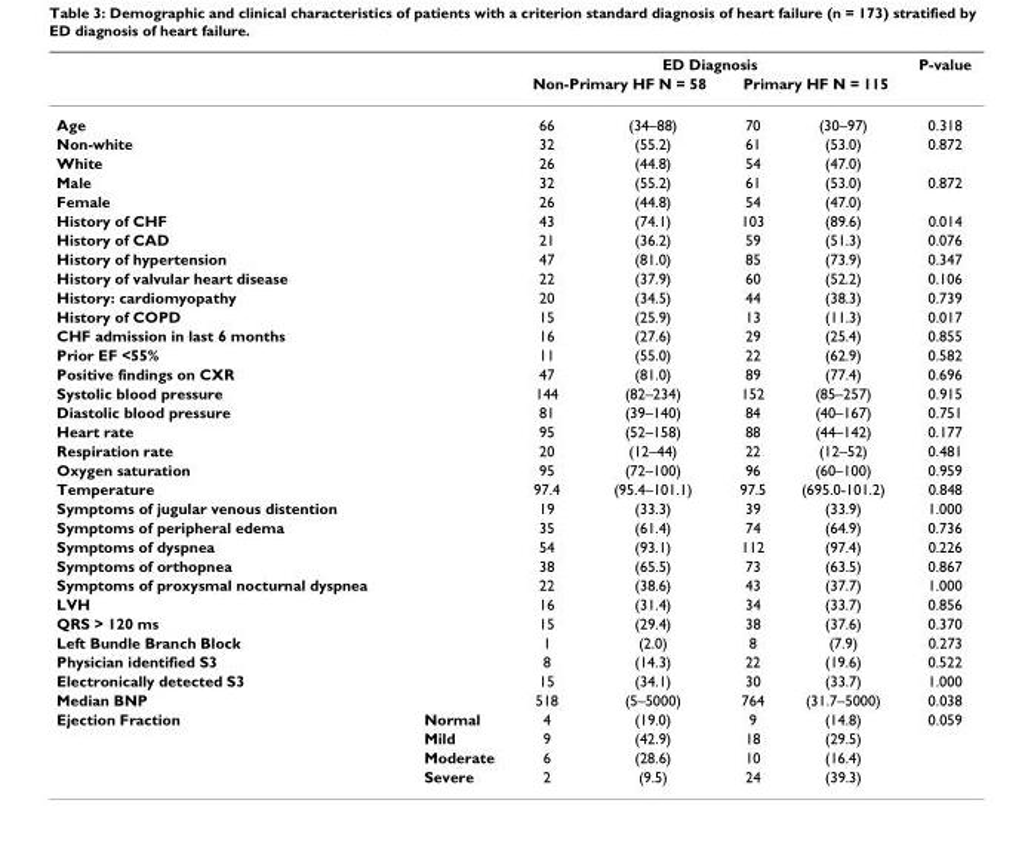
<table><thead><tr><td rowspan="3">Age</td><td rowspan="3"></td><td colspan="4">ED Diagnosis</td><td rowspan="3">P-value 0.318</td></tr><tr><td colspan="2">Non-Primary HF N = 58</td><td colspan="2">Primary HF N = 115</td></tr><tr><td>66</td><td>(34–88)</td><td>70</td><td>(30–97)</td></tr></thead><tbody><tr><td>Non-white</td><td></td><td>32</td><td>(55.2)</td><td>61</td><td>(53.0)</td><td>0.872</td></tr><tr><td>White</td><td></td><td>26</td><td>(44.8)</td><td>54</td><td>(47.0)</td><td></td></tr><tr><td>Male</td><td></td><td>32</td><td>(55.2)</td><td>61</td><td>(53.0)</td><td>0.872</td></tr><tr><td>Female</td><td></td><td>26</td><td>(44.8)</td><td>54</td><td>(47.0)</td><td></td></tr><tr><td>History of CHF</td><td></td><td>43</td><td>(74.1)</td><td>103</td><td>(89.6)</td><td>0.014</td></tr><tr><td>History of CAD</td><td></td><td>21</td><td>(36.2)</td><td>59</td><td>(51.3)</td><td>0.076</td></tr><tr><td>History of hypertension</td><td></td><td>47</td><td>(81.0)</td><td>85</td><td>(73.9)</td><td>0.347</td></tr><tr><td>History of valvular heart disease</td><td></td><td>22</td><td>(37.9)</td><td>60</td><td>(52.2)</td><td>0.106</td></tr><tr><td>History: cardiomyopathy</td><td></td><td>20</td><td>(34.5)</td><td>44</td><td>(38.3)</td><td>0.739</td></tr><tr><td>History of COPD</td><td></td><td>15</td><td>(25.9)</td><td>13</td><td>(11.3)</td><td>0.017</td></tr><tr><td>CHF admission in last 6 months</td><td></td><td>16</td><td>(27.6)</td><td>29</td><td>(25.4)</td><td>0.855</td></tr><tr><td>Prior EF &lt;55%</td><td></td><td>11</td><td>(55.0)</td><td>22</td><td>(62.9)</td><td>0.582</td></tr><tr><td>Positive findings on CXR</td><td></td><td>47</td><td>(81.0)</td><td>89</td><td>(77.4)</td><td>0.696</td></tr><tr><td>Systolic blood pressure</td><td></td><td>144</td><td>(82–234)</td><td>152</td><td>(85–257)</td><td>0.915</td></tr><tr><td>Diastolic blood pressure</td><td></td><td>81</td><td>(39–140)</td><td>84</td><td>(40–167)</td><td>0.751</td></tr><tr><td>Heart rate</td><td></td><td>95</td><td>(52–158)</td><td>88</td><td>(44–142)</td><td>0.177</td></tr><tr><td>Respiration rate</td><td></td><td>20</td><td>(12–44)</td><td>22</td><td>(12–52)</td><td>0.481</td></tr><tr><td>Oxygen saturation</td><td></td><td>95</td><td>(72–100)</td><td>96</td><td>(60–100)</td><td>0.959</td></tr><tr><td>Temperature</td><td></td><td>97.4</td><td>(95.4–101.1)</td><td>97.5</td><td>(695.0-101.2)</td><td>0.848</td></tr><tr><td>Symptoms of jugular venous distention</td><td></td><td>19</td><td>(33.3)</td><td>39</td><td>(33.9)</td><td>1.000</td></tr><tr><td>Symptoms of peripheral edema</td><td></td><td>35</td><td>(61.4)</td><td>74</td><td>(64.9)</td><td>0.736</td></tr><tr><td>Symptoms of dyspnea</td><td></td><td>54</td><td>(93.1)</td><td>112</td><td>(97.4)</td><td>0.226</td></tr><tr><td>Symptoms of orthopnea</td><td></td><td>38</td><td>(65.5)</td><td>73</td><td>(63.5)</td><td>0.867</td></tr><tr><td>Symptoms of proxysmal nocturnal dyspnea</td><td></td><td>22</td><td>(38.6)</td><td>43</td><td>(37.7)</td><td>1.000</td></tr><tr><td>LVH</td><td></td><td>16</td><td>(31.4)</td><td>34</td><td>(33.7)</td><td>0.856</td></tr><tr><td>QRS &gt; 120 ms</td><td></td><td>15</td><td>(29.4)</td><td>38</td><td>(37.6)</td><td>0.370</td></tr><tr><td>Left Bundle Branch Block</td><td></td><td>1</td><td>(2.0)</td><td>8</td><td>(7.9)</td><td>0.273</td></tr><tr><td>Physician identified S3</td><td></td><td>8</td><td>(14.3)</td><td>22</td><td>(19.6)</td><td>0.522</td></tr><tr><td>Electronically detected S3</td><td></td><td>15</td><td>(34.1)</td><td>30</td><td>(33.7)</td><td>1.000</td></tr><tr><td>Median BNP</td><td></td><td>518</td><td>(5–5000)</td><td>764</td><td>(31.7–5000)</td><td>0.038</td></tr><tr><td rowspan="4">Ejection Fraction</td><td>Normal</td><td>4</td><td>(19.0)</td><td>9</td><td>(14.8)</td><td>0.059</td></tr><tr><td>Mild</td><td>9</td><td>(42.9)</td><td>18</td><td>(29.5)</td><td></td></tr><tr><td>Moderate</td><td>6</td><td>(28.6)</td><td>10</td><td>(16.4)</td><td></td></tr><tr><td>Severe</td><td>2</td><td>(9.5)</td><td>24</td><td>(39.3)</td><td></td></tr></tbody></table>